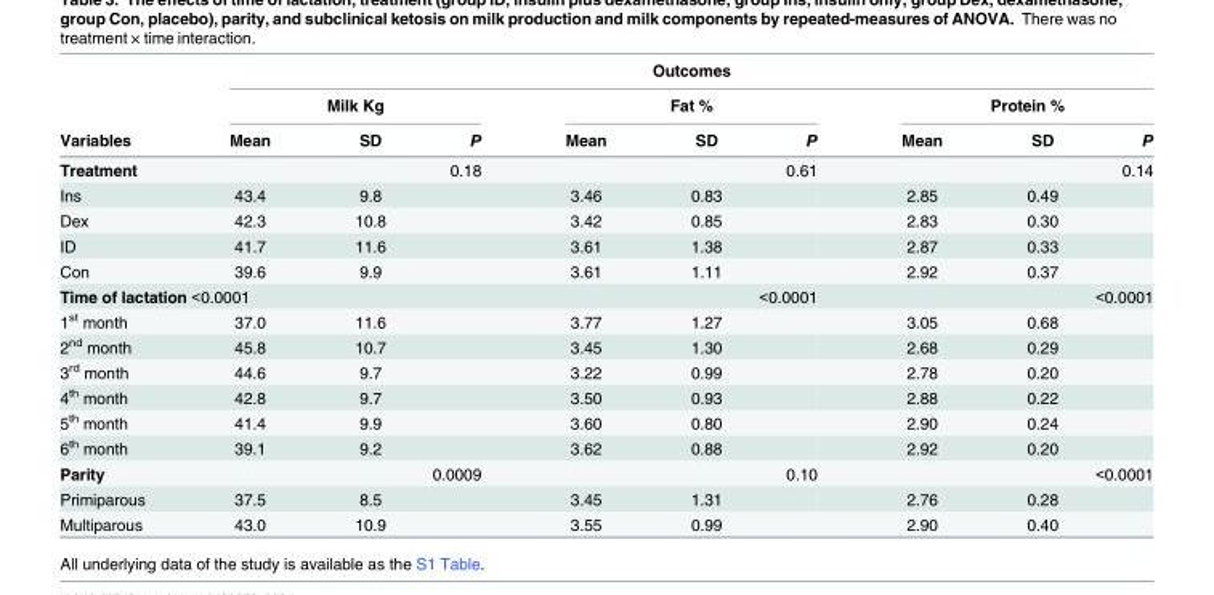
<table><thead><tr><td rowspan="3">Variables</td><td colspan="9">Outcomes</td></tr><tr><td colspan="3">Milk Kg</td><td colspan="3">Fat %</td><td colspan="3">Protein %</td></tr><tr><td>Mean</td><td>SD</td><td>P</td><td>Mean</td><td>SD</td><td>P</td><td>Mean</td><td>SD</td><td>P</td></tr></thead><tbody><tr><td>Treatment</td><td colspan="3">0.18</td><td colspan="3">0.61</td><td colspan="3">0.14</td></tr><tr><td>Ins</td><td>43.4</td><td>9.8</td><td></td><td>3.46</td><td>0.83</td><td></td><td>2.85</td><td>0.49</td><td></td></tr><tr><td>Dex</td><td>42.3</td><td>10.8</td><td></td><td>3.42</td><td>0.85</td><td></td><td>2.83</td><td>0.30</td><td></td></tr><tr><td>ID</td><td>41.7</td><td>11.6</td><td></td><td>3.61</td><td>1.38</td><td></td><td>2.87</td><td>0.33</td><td></td></tr><tr><td>Con</td><td>39.6</td><td>9.9</td><td></td><td>3.61</td><td>1.11</td><td></td><td>2.92</td><td>0.37</td><td></td></tr><tr><td colspan="4">Time of lactation &lt;0.0001</td><td colspan="3">&lt;0.0001</td><td colspan="3">&lt;0.0001</td></tr><tr><td>1<sup>st</sup> month</td><td>37.0</td><td>11.6</td><td></td><td>3.77</td><td>1.27</td><td></td><td>3.05</td><td>0.68</td><td></td></tr><tr><td>2<sup>nd</sup> month</td><td>45.8</td><td>10.7</td><td></td><td>3.45</td><td>1.30</td><td></td><td>2.68</td><td>0.29</td><td></td></tr><tr><td>3<sup>rd</sup> month</td><td>44.6</td><td>9.7</td><td></td><td>3.22</td><td>0.99</td><td></td><td>2.78</td><td>0.20</td><td></td></tr><tr><td>4<sup>th</sup> month</td><td>42.8</td><td>9.7</td><td></td><td>3.50</td><td>0.93</td><td></td><td>2.88</td><td>0.22</td><td></td></tr><tr><td>5<sup>th</sup> month</td><td>41.4</td><td>9.9</td><td></td><td>3.60</td><td>0.80</td><td></td><td>2.90</td><td>0.24</td><td></td></tr><tr><td>6<sup>th</sup> month</td><td>39.1</td><td>9.2</td><td></td><td>3.62</td><td>0.88</td><td></td><td>2.92</td><td>0.20</td><td></td></tr><tr><td>Parity</td><td></td><td colspan="2">0.0009</td><td colspan="3">0.10</td><td colspan="3">&lt;0.0001</td></tr><tr><td>Primiparous</td><td>37.5</td><td>8.5</td><td></td><td>3.45</td><td>1.31</td><td></td><td>2.76</td><td>0.28</td><td></td></tr><tr><td>Multiparous</td><td>43.0</td><td>10.9</td><td></td><td>3.55</td><td>0.99</td><td></td><td>2.90</td><td>0.40</td><td></td></tr></tbody></table>